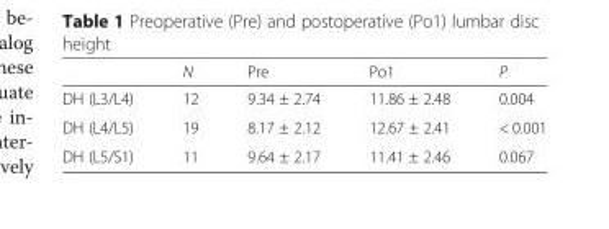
<table><thead><tr><td></td><td>N</td><td>Pre</td><td>Po1</td><td>P</td></tr></thead><tbody><tr><td>DH (L3/L4)</td><td>12</td><td>9.34 ± 2.74</td><td>11.86 ± 2.48</td><td>0.004</td></tr><tr><td>DH (L4/L5)</td><td>19</td><td>8.17 ± 2.12</td><td>12.67 ± 2.41</td><td>&lt; 0.001</td></tr><tr><td>DH (L5/S1)</td><td>11</td><td>9.64 ± 2.17</td><td>11.41 ± 2.46</td><td>0.067</td></tr></tbody></table>